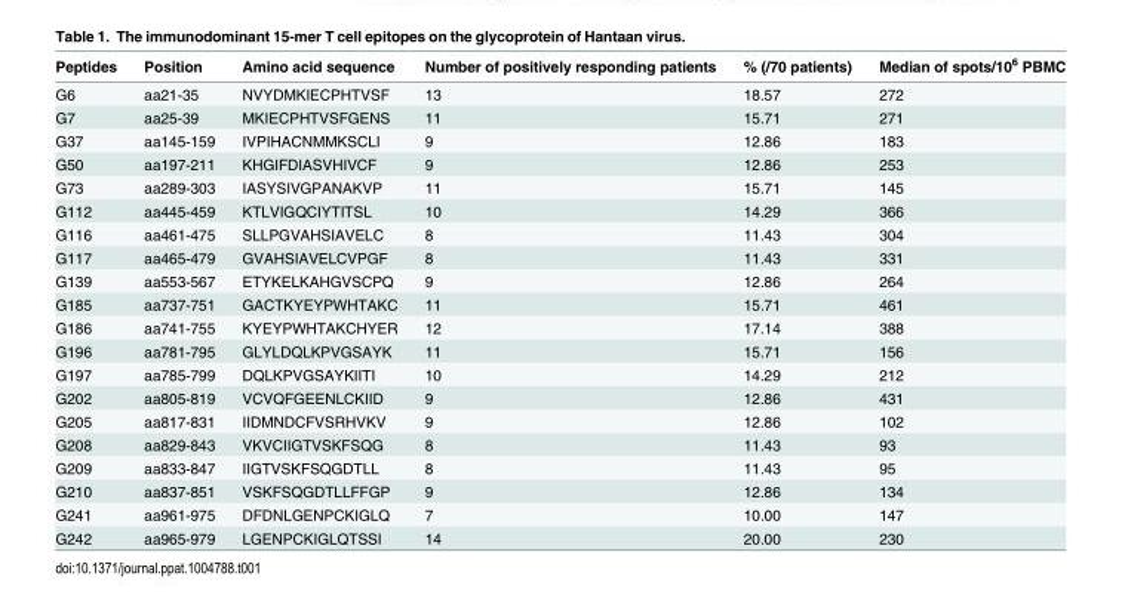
<table><thead><tr><td>Peptides</td><td>Position</td><td>Amino acid sequence</td><td>Number of positively responding patients</td><td>% (/70 patients)</td><td>Median of spots/10<sup>6</sup> PBMC</td></tr></thead><tbody><tr><td>G6</td><td>aa21-35</td><td>NVYDMKIECPHTVSF</td><td>13</td><td>18.57</td><td>272</td></tr><tr><td>G7</td><td>aa25-39</td><td>MKIECPHTVSFGENS</td><td>11</td><td>15.71</td><td>271</td></tr><tr><td>G37</td><td>aa145-159</td><td>IVPIHACNMMKSCLI</td><td>9</td><td>12.86</td><td>183</td></tr><tr><td>G50</td><td>aa197-211</td><td>KHGIFDIASVHIVCF</td><td>9</td><td>12.86</td><td>253</td></tr><tr><td>G73</td><td>aa289-303</td><td>IASYSIVGPANAKVP</td><td>11</td><td>15.71</td><td>145</td></tr><tr><td>G112</td><td>aa445-459</td><td>KTLVIGQCIYTITSL</td><td>10</td><td>14.29</td><td>366</td></tr><tr><td>G116</td><td>aa461-475</td><td>SLLPGVAHSIAVELC</td><td>8</td><td>11.43</td><td>304</td></tr><tr><td>G117</td><td>aa465-479</td><td>GVAHSIAVELCVPGF</td><td>8</td><td>11.43</td><td>331</td></tr><tr><td>G139</td><td>aa553-567</td><td>ETYKELKAHGVSCPQ</td><td>9</td><td>12.86</td><td>264</td></tr><tr><td>G185</td><td>aa737-751</td><td>GACTKYEYPWHTAKC</td><td>11</td><td>15.71</td><td>461</td></tr><tr><td>G186</td><td>aa741-755</td><td>KYEYPWHTAKCHYER</td><td>12</td><td>17.14</td><td>388</td></tr><tr><td>G196</td><td>aa781-795</td><td>GLYLDQLKPVGSAYK</td><td>11</td><td>15.71</td><td>156</td></tr><tr><td>G197</td><td>aa785-799</td><td>DQLKPVGSAYKIITI</td><td>10</td><td>14.29</td><td>212</td></tr><tr><td>G202</td><td>aa805-819</td><td>VCVQFGEENLCKIID</td><td>9</td><td>12.86</td><td>431</td></tr><tr><td>G205</td><td>aa817-831</td><td>IIDMNDCFVSRHVKV</td><td>9</td><td>12.86</td><td>102</td></tr><tr><td>G208</td><td>aa829-843</td><td>VKVCIIGTVSKFSQG</td><td>8</td><td>11.43</td><td>93</td></tr><tr><td>G209</td><td>aa833-847</td><td>IIGTVSKFSQGDTLL</td><td>8</td><td>11.43</td><td>95</td></tr><tr><td>G210</td><td>aa837-851</td><td>VSKFSQGDTLLFFGP</td><td>9</td><td>12.86</td><td>134</td></tr><tr><td>G241</td><td>aa961-975</td><td>DFDNLGENPCKIGLQ</td><td>7</td><td>10.00</td><td>147</td></tr><tr><td>G242</td><td>aa965-979</td><td>LGENPCKIGLQTSSI</td><td>14</td><td>20.00</td><td>230</td></tr></tbody></table>